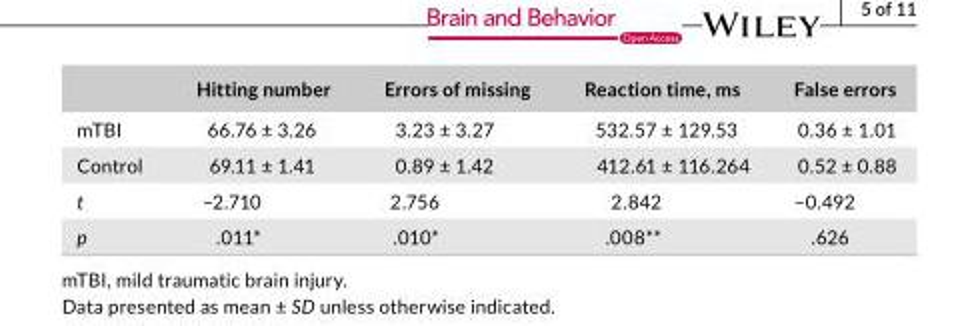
<table><thead><tr><td></td><td>Hitting number</td><td>Errors of missing</td><td>Reaction time, ms</td><td>False errors</td></tr></thead><tbody><tr><td>mTBI</td><td>66.76 ± 3.26</td><td>3.23 ± 3.27</td><td>532.57 ± 129.53</td><td>0.36 ± 1.01</td></tr><tr><td>Control</td><td>69.11 ± 1.41</td><td>0.89 ± 1.42</td><td>412.61 ± 116.264</td><td>0.52 ± 0.88</td></tr><tr><td>t</td><td>−2.710</td><td>2.756</td><td>2.842</td><td>−0.492</td></tr><tr><td>p</td><td>.011*</td><td>.010*</td><td>.008**</td><td>.626</td></tr></tbody></table>